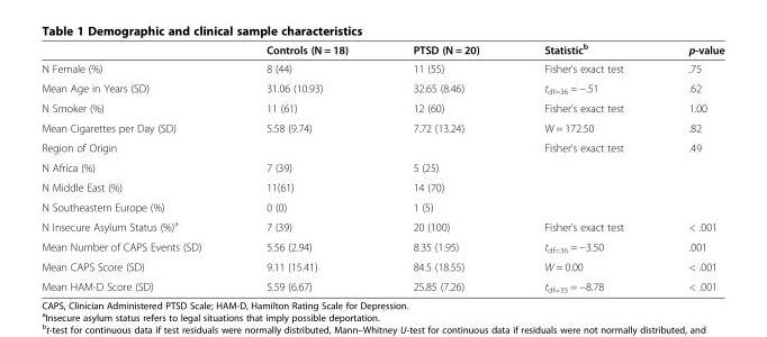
<table><thead><tr><td></td><td>Controls (N = 18)</td><td>PTSD (N = 20)</td><td>Statistic<sup>b</sup></td><td>p-value</td></tr></thead><tbody><tr><td>N Female (%)</td><td>8 (44)</td><td>11 (55)</td><td>Fisher’s exact test</td><td>.75</td></tr><tr><td>Mean Age in Years (SD)</td><td>31.06 (10.93)</td><td>32.65 (8.46)</td><td>t<sub>df=36</sub> = −.51</td><td>.62</td></tr><tr><td>N Smoker (%)</td><td>11 (61)</td><td>12 (60)</td><td>Fisher’s exact test</td><td>1.00</td></tr><tr><td>Mean Cigarettes per Day (SD)</td><td>5.58 (9.74)</td><td>7.72 (13.24)</td><td>W = 172.50</td><td>.82</td></tr><tr><td colspan="3">Region of Origin</td><td rowspan="4">Fisher’s exact test</td><td rowspan="4">.49</td></tr><tr><td>N Africa (%)</td><td>7 (39)</td><td>5 (25)</td></tr><tr><td>N Middle East (%)</td><td>11(61)</td><td>14 (70)</td></tr><tr><td>N Southeastern Europe (%)</td><td>0 (0)</td><td>1 (5)</td></tr><tr><td>N Insecure Asylum Status (%)<sup>a</sup></td><td>7 (39)</td><td>20 (100)</td><td>Fisher’s exact test</td><td>&lt; .001</td></tr><tr><td>Mean Number of CAPS Events (SD)</td><td>5.56 (2.94)</td><td>8.35 (1.95)</td><td>t<sub>df=36</sub> = −3.50</td><td>.001</td></tr><tr><td>Mean CAPS Score (SD)</td><td>9.11 (15.41)</td><td>84.5 (18.55)</td><td>W = 0.00</td><td>&lt; .001</td></tr><tr><td>Mean HAM-D Score (SD)</td><td>5.59 (6.67)</td><td>25.85 (7.26)</td><td>t<sub>df=35</sub> = −8.78</td><td>&lt; .001</td></tr></tbody></table>